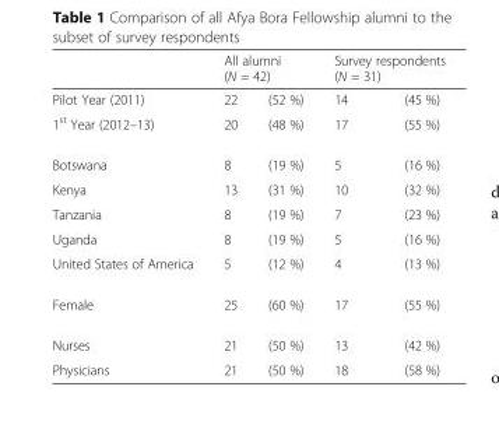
<table><thead><tr><td rowspan="2">Pilot Year (2011)</td><td colspan="2">All alumni (N = 42)</td><td colspan="2">Survey respondents (N = 31)</td></tr><tr><td>22</td><td>(52 %)</td><td>14</td><td>(45 %)</td></tr></thead><tbody><tr><td>1<sup>st</sup> Year (2012–13)</td><td>20</td><td>(48 %)</td><td>17</td><td>(55 %)</td></tr><tr><td>Botswana</td><td>8</td><td>(19 %)</td><td>5</td><td>(16 %)</td></tr><tr><td>Kenya</td><td>13</td><td>(31 %)</td><td>10</td><td>(32 %)</td></tr><tr><td>Tanzania</td><td>8</td><td>(19 %)</td><td>7</td><td>(23 %)</td></tr><tr><td>Uganda</td><td>8</td><td>(19 %)</td><td>5</td><td>(16 %)</td></tr><tr><td>United States of America</td><td>5</td><td>(12 %)</td><td>4</td><td>(13 %)</td></tr><tr><td>Female</td><td>25</td><td>(60 %)</td><td>17</td><td>(55 %)</td></tr><tr><td>Nurses</td><td>21</td><td>(50 %)</td><td>13</td><td>(42 %)</td></tr><tr><td>Physicians</td><td>21</td><td>(50 %)</td><td>18</td><td>(58 %)</td></tr></tbody></table>